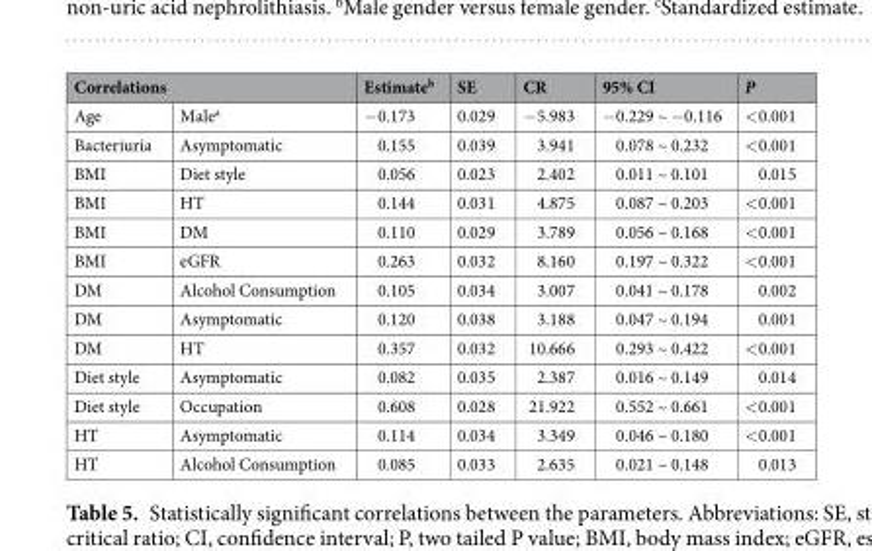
<table><thead><tr><td colspan="2">Correlations</td><td rowspan="2">Estimate<sup>b</sup> −0.173</td><td rowspan="2">SE 0.029</td><td rowspan="2">CR −5.983</td><td rowspan="2">95% CI −0.229 ~ −0.116</td><td rowspan="2">P &lt;0.001</td></tr><tr><td>Age</td><td>Male<sup>a</sup></td></tr></thead><tbody><tr><td>Bacteriuria</td><td>Asymptomatic</td><td>0.155</td><td>0.039</td><td>3.941</td><td>0.078 ~ 0.232</td><td>&lt;0.001</td></tr><tr><td>BMI</td><td>Diet style</td><td>0.056</td><td>0.023</td><td>2.402</td><td>0.011 ~ 0.101</td><td>0.015</td></tr><tr><td>BMI</td><td>HT</td><td>0.144</td><td>0.031</td><td>4.875</td><td>0.087 ~ 0.203</td><td>&lt;0.001</td></tr><tr><td>BMI</td><td>DM</td><td>0.110</td><td>0.029</td><td>3.789</td><td>0.056 ~ 0.168</td><td>&lt;0.001</td></tr><tr><td>BMI</td><td>eGFR</td><td>0.263</td><td>0.032</td><td>8.160</td><td>0.197 ~ 0.322</td><td>&lt;0.001</td></tr><tr><td>DM</td><td>Alcohol Consumption</td><td>0.105</td><td>0.034</td><td>3.007</td><td>0.041 ~ 0.178</td><td>0.002</td></tr><tr><td>DM</td><td>Asymptomatic</td><td>0.120</td><td>0.038</td><td>3.188</td><td>0.047 ~ 0.194</td><td>0.001</td></tr><tr><td>DM</td><td>HT</td><td>0.357</td><td>0.032</td><td>10.666</td><td>0.293 ~ 0.422</td><td>&lt;0.001</td></tr><tr><td>Diet style</td><td>Asymptomatic</td><td>0.082</td><td>0.035</td><td>2.387</td><td>0.016 ~ 0.149</td><td>0.014</td></tr><tr><td>Diet style</td><td>Occupation</td><td>0.608</td><td>0.028</td><td>21.922</td><td>0.552 ~ 0.661</td><td>&lt;0.001</td></tr><tr><td>HT</td><td>Asymptomatic</td><td>0.114</td><td>0.034</td><td>3.349</td><td>0.046 ~ 0.180</td><td>&lt;0.001</td></tr><tr><td>HT</td><td>Alcohol Consumption</td><td>0.085</td><td>0.033</td><td>2.635</td><td>0.021 ~ 0.148</td><td>0.013</td></tr></tbody></table>